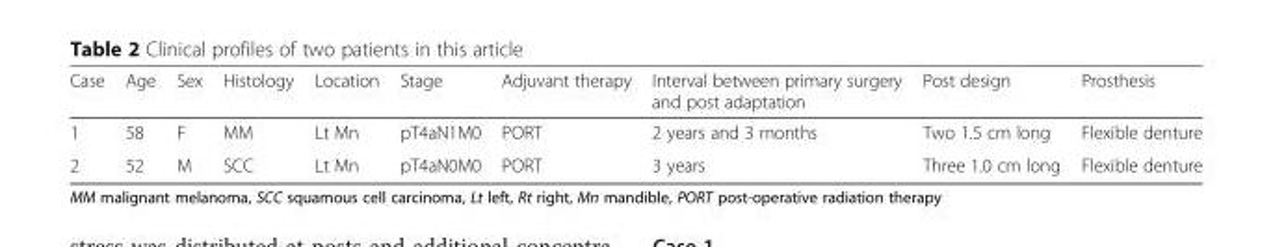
<table><thead><tr><td>Case</td><td>Age</td><td>Sex</td><td>Histology</td><td>Location</td><td>Stage</td><td>Adjuvant therapy</td><td>Interval between primary surgery and post adaptation</td><td>Post design</td><td>Prosthesis</td></tr></thead><tbody><tr><td>1</td><td>58</td><td>F</td><td>MM</td><td>Lt Mn</td><td>pT4aN1M0</td><td>PORT</td><td>2 years and 3 months</td><td>Two 1.5 cm long</td><td>Flexible denture</td></tr><tr><td>2</td><td>52</td><td>M</td><td>SCC</td><td>Lt Mn</td><td>pT4aN0M0</td><td>PORT</td><td>3 years</td><td>Three 1.0 cm long</td><td>Flexible denture</td></tr></tbody></table>